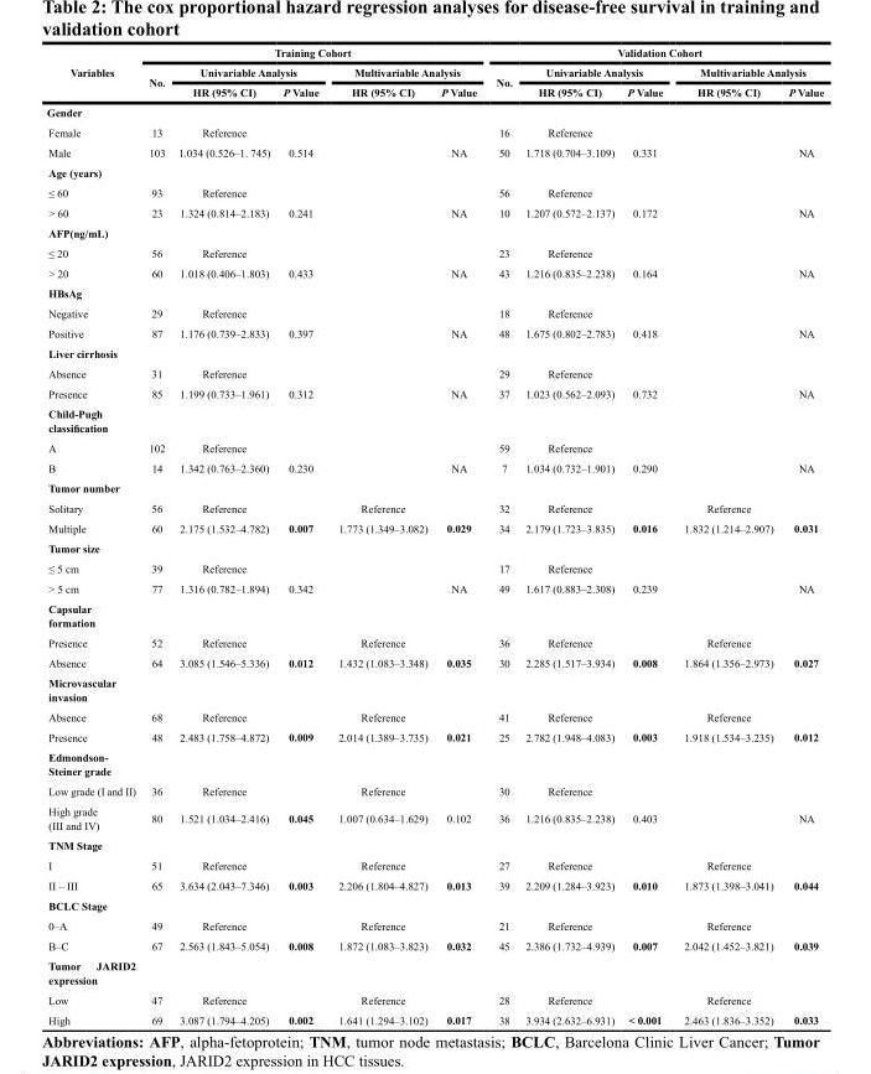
<table><thead><tr><td rowspan="3">Variables</td><td colspan="5">Training Cohort</td><td colspan="5">Validation Cohort</td></tr><tr><td rowspan="2">No.</td><td colspan="2">Univariable Analysis</td><td colspan="2">Multivariable Analysis</td><td rowspan="2">No.</td><td colspan="2">Univariable Analysis</td><td colspan="2">Multivariable Analysis</td></tr><tr><td>HR (95% CI)</td><td>P Value</td><td>HR (95% CI)</td><td>P Value</td><td>HR (95% CI)</td><td>P Value</td><td>HR (95% CI)</td><td>P Value</td></tr></thead><tbody><tr><td colspan="11">Gender</td></tr><tr><td>Female</td><td>13</td><td>Reference</td><td></td><td></td><td></td><td>16</td><td>Reference</td><td></td><td></td><td></td></tr><tr><td>Male</td><td>103</td><td>1.034 (0.526–1. 745)</td><td>0.514</td><td></td><td>NA</td><td>50</td><td>1.718 (0.704–3.109)</td><td>0.331</td><td></td><td>NA</td></tr><tr><td colspan="11">Age (years)</td></tr><tr><td>≤ 60</td><td>93</td><td>Reference</td><td></td><td></td><td></td><td>56</td><td>Reference</td><td></td><td></td><td></td></tr><tr><td>&gt; 60</td><td>23</td><td>1.324 (0.814–2.183)</td><td>0.241</td><td></td><td>NA</td><td>10</td><td>1.207 (0.572–2.137)</td><td>0.172</td><td></td><td>NA</td></tr><tr><td colspan="11">AFP(ng/mL)</td></tr><tr><td>≤ 20</td><td>56</td><td>Reference</td><td></td><td></td><td></td><td>23</td><td>Reference</td><td></td><td></td><td></td></tr><tr><td>&gt; 20</td><td>60</td><td>1.018 (0.406–1.803)</td><td>0.433</td><td></td><td>NA</td><td>43</td><td>1.216 (0.835–2.238)</td><td>0.164</td><td></td><td>NA</td></tr><tr><td colspan="11">HBsAg</td></tr><tr><td>Negative</td><td>29</td><td>Reference</td><td></td><td></td><td></td><td>18</td><td>Reference</td><td></td><td></td><td></td></tr><tr><td>Positive</td><td>87</td><td>1.176 (0.739–2.833)</td><td>0.397</td><td></td><td>NA</td><td>48</td><td>1.675 (0.802–2.783)</td><td>0.418</td><td></td><td>NA</td></tr><tr><td colspan="11">Liver cirrhosis</td></tr><tr><td>Absence</td><td>31</td><td>Reference</td><td></td><td></td><td></td><td>29</td><td>Reference</td><td></td><td></td><td></td></tr><tr><td>Presence</td><td>85</td><td>1.199 (0.733–1.961)</td><td>0.312</td><td></td><td>NA</td><td>37</td><td>1.023 (0.562–2.093)</td><td>0.732</td><td></td><td>NA</td></tr><tr><td colspan="11">Child-Pugh classification</td></tr><tr><td>A</td><td>102</td><td>Reference</td><td></td><td></td><td></td><td>59</td><td>Reference</td><td></td><td></td><td></td></tr><tr><td>B</td><td>14</td><td>1.342 (0.763–2.360)</td><td>0.230</td><td></td><td>NA</td><td>7</td><td>1.034 (0.732–1.901)</td><td>0.290</td><td></td><td>NA</td></tr><tr><td colspan="11">Tumor number</td></tr><tr><td>Solitary</td><td>56</td><td>Reference</td><td></td><td>Reference</td><td></td><td>32</td><td>Reference</td><td></td><td>Reference</td><td></td></tr><tr><td>Multiple</td><td>60</td><td>2.175 (1.532–4.782)</td><td>0.007</td><td>1.773 (1.349–3.082)</td><td>0.029</td><td>34</td><td>2.179 (1.723–3.835)</td><td>0.016</td><td>1.832 (1.214–2.907)</td><td>0.031</td></tr><tr><td colspan="11">Tumor size</td></tr><tr><td>≤ 5 cm</td><td>39</td><td>Reference</td><td></td><td></td><td></td><td>17</td><td>Reference</td><td></td><td></td><td></td></tr><tr><td>&gt; 5 cm</td><td>77</td><td>1.316 (0.782–1.894)</td><td>0.342</td><td></td><td>NA</td><td>49</td><td>1.617 (0.883–2.308)</td><td>0.239</td><td></td><td>NA</td></tr><tr><td colspan="11">Capsular formation</td></tr><tr><td>Presence</td><td>52</td><td>Reference</td><td></td><td>Reference</td><td></td><td>36</td><td>Reference</td><td></td><td>Reference</td><td></td></tr><tr><td>Absence</td><td>64</td><td>3.085 (1.546–5.336)</td><td>0.012</td><td>1.432 (1.083–3.348)</td><td>0.035</td><td>30</td><td>2.285 (1.517–3.934)</td><td>0.008</td><td>1.864 (1.356–2.973)</td><td>0.027</td></tr><tr><td colspan="11">Microvascular invasion</td></tr><tr><td>Absence</td><td>68</td><td>Reference</td><td></td><td>Reference</td><td></td><td>41</td><td>Reference</td><td></td><td>Reference</td><td></td></tr><tr><td>Presence</td><td>48</td><td>2.483 (1.758–4.872)</td><td>0.009</td><td>2.014 (1.389–3.735)</td><td>0.021</td><td>25</td><td>2.782 (1.948–4.083)</td><td>0.003</td><td>1.918 (1.534–3.235)</td><td>0.012</td></tr><tr><td colspan="11">Edmondson- Steiner grade</td></tr><tr><td>Low grade (I and II)</td><td>36</td><td>Reference</td><td></td><td>Reference</td><td></td><td>30</td><td>Reference</td><td></td><td></td><td></td></tr><tr><td>High grade (III and IV)</td><td>80</td><td>1.521 (1.034–2.416)</td><td>0.045</td><td>1.007 (0.634–1.629)</td><td>0.102</td><td>36</td><td>1.216 (0.835–2.238)</td><td>0.403</td><td></td><td>NA</td></tr><tr><td colspan="11">TNM Stage</td></tr><tr><td>I</td><td>51</td><td>Reference</td><td></td><td>Reference</td><td></td><td>27</td><td>Reference</td><td></td><td>Reference</td><td></td></tr><tr><td>II – III</td><td>65</td><td>3.634 (2.043–7.346)</td><td>0.003</td><td>2.206 (1.804–4.827)</td><td>0.013</td><td>39</td><td>2.209 (1.284–3.923)</td><td>0.010</td><td>1.873 (1.398–3.041)</td><td>0.044</td></tr><tr><td colspan="11">BCLC Stage</td></tr><tr><td>0–A</td><td>49</td><td>Reference</td><td></td><td>Reference</td><td></td><td>21</td><td>Reference</td><td></td><td>Reference</td><td></td></tr><tr><td>B–C</td><td>67</td><td>2.563 (1.843–5.054)</td><td>0.008</td><td>1.872 (1.083–3.823)</td><td>0.032</td><td>45</td><td>2.386 (1.732–4.939)</td><td>0.007</td><td>2.042 (1.452–3.821)</td><td>0.039</td></tr><tr><td colspan="11">Tumor JARID2 expression</td></tr><tr><td>Low</td><td>47</td><td>Reference</td><td></td><td>Reference</td><td></td><td>28</td><td>Reference</td><td></td><td>Reference</td><td></td></tr><tr><td>High</td><td>69</td><td>3.087 (1.794–4.205)</td><td>0.002</td><td>1.641 (1.294–3.102)</td><td>0.017</td><td>38</td><td>3.934 (2.632–6.931)</td><td>&lt; 0.001</td><td>2.463 (1.836–3.352)</td><td>0.033</td></tr></tbody></table>